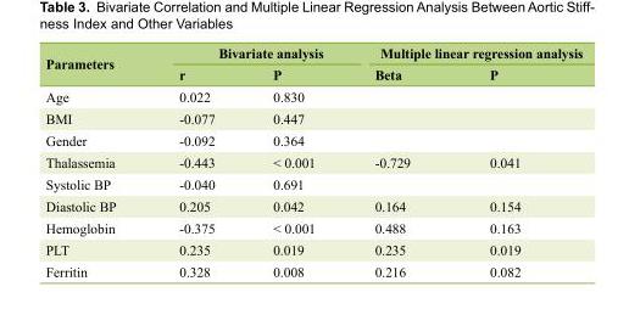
<table><thead><tr><td rowspan="2">Parameters</td><td colspan="2">Bivariate analysis</td><td colspan="2">Multiple linear regression analysis</td></tr><tr><td>r</td><td>P</td><td>Beta</td><td>P</td></tr></thead><tbody><tr><td>Age</td><td>0.022</td><td>0.830</td><td></td><td></td></tr><tr><td>BMI</td><td>-0.077</td><td>0.447</td><td></td><td></td></tr><tr><td>Gender</td><td>-0.092</td><td>0.364</td><td></td><td></td></tr><tr><td>Thalassemia</td><td>-0.443</td><td>&lt; 0.001</td><td>-0.729</td><td>0.041</td></tr><tr><td>Systolic BP</td><td>-0.040</td><td>0.691</td><td></td><td></td></tr><tr><td>Diastolic BP</td><td>0.205</td><td>0.042</td><td>0.164</td><td>0.154</td></tr><tr><td>Hemoglobin</td><td>-0.375</td><td>&lt; 0.001</td><td>0.488</td><td>0.163</td></tr><tr><td>PLT</td><td>0.235</td><td>0.019</td><td>0.235</td><td>0.019</td></tr><tr><td>Ferritin</td><td>0.328</td><td>0.008</td><td>0.216</td><td>0.082</td></tr></tbody></table>